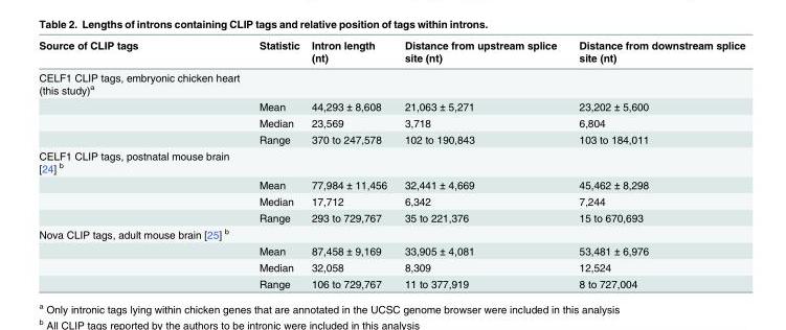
<table><thead><tr><td>Source of CLIP tags</td><td>Statistic</td><td>Intron length (nt)</td><td>Distance from upstream splice site (nt)</td><td>Distance from downstream splice site (nt)</td></tr></thead><tbody><tr><td colspan="5">CELF1 CLIP tags, embryonic chicken heart (this study)<sup>a</sup></td></tr><tr><td></td><td>Mean</td><td>44,293 ± 8,608</td><td>21,063 ± 5,271</td><td>23,202 ± 5,600</td></tr><tr><td></td><td>Median</td><td>23,569</td><td>3,718</td><td>6,804</td></tr><tr><td></td><td>Range</td><td>370 to 247,578</td><td>102 to 190,843</td><td>103 to 184,011</td></tr><tr><td colspan="5">CELF1 CLIP tags, postnatal mouse brain [24] <sup>b</sup></td></tr><tr><td></td><td>Mean</td><td>77,984 ± 11,456</td><td>32,441 ± 4,669</td><td>45,462 ± 8,298</td></tr><tr><td></td><td>Median</td><td>17,712</td><td>6,342</td><td>7,244</td></tr><tr><td></td><td>Range</td><td>293 to 729,767</td><td>35 to 221,376</td><td>15 to 670,693</td></tr><tr><td colspan="5">Nova CLIP tags, adult mouse brain [25] <sup>b</sup></td></tr><tr><td></td><td>Mean</td><td>87,458 ± 9,169</td><td>33,905 ± 4,081</td><td>53,481 ± 6,976</td></tr><tr><td></td><td>Median</td><td>32,058</td><td>8,309</td><td>12,524</td></tr><tr><td></td><td>Range</td><td>106 to 729,767</td><td>11 to 377,919</td><td>8 to 727,004</td></tr></tbody></table>